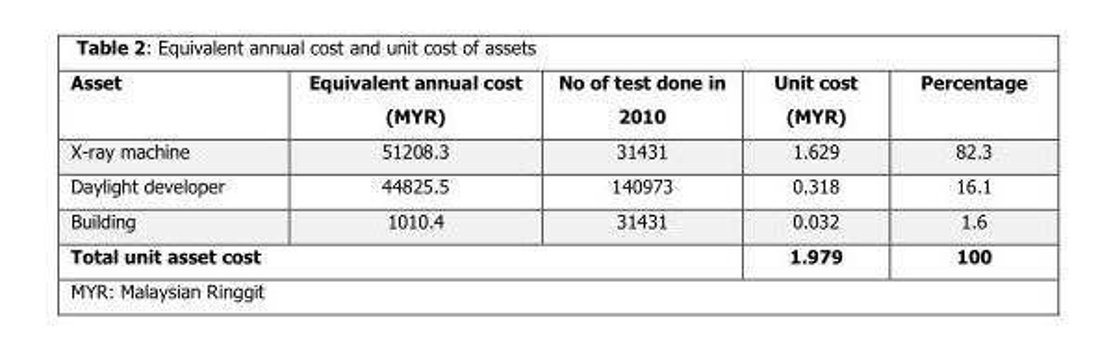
<table><thead><tr><td>Asset</td><td>Equivalent annual cost (MYR)</td><td>No of test done in 2010</td><td>Unit cost (MYR)</td><td>Percentage</td></tr></thead><tbody><tr><td>X-ray machine</td><td>51208.3</td><td>31431</td><td>1.629</td><td>82.3</td></tr><tr><td>Daylight developer</td><td>44825.5</td><td>140973</td><td>0.318</td><td>16.1</td></tr><tr><td>Building</td><td>1010.4</td><td>31431</td><td>0.032</td><td>1.6</td></tr><tr><td colspan="3">Total unit asset cost</td><td>1.979</td><td>100</td></tr></tbody></table>